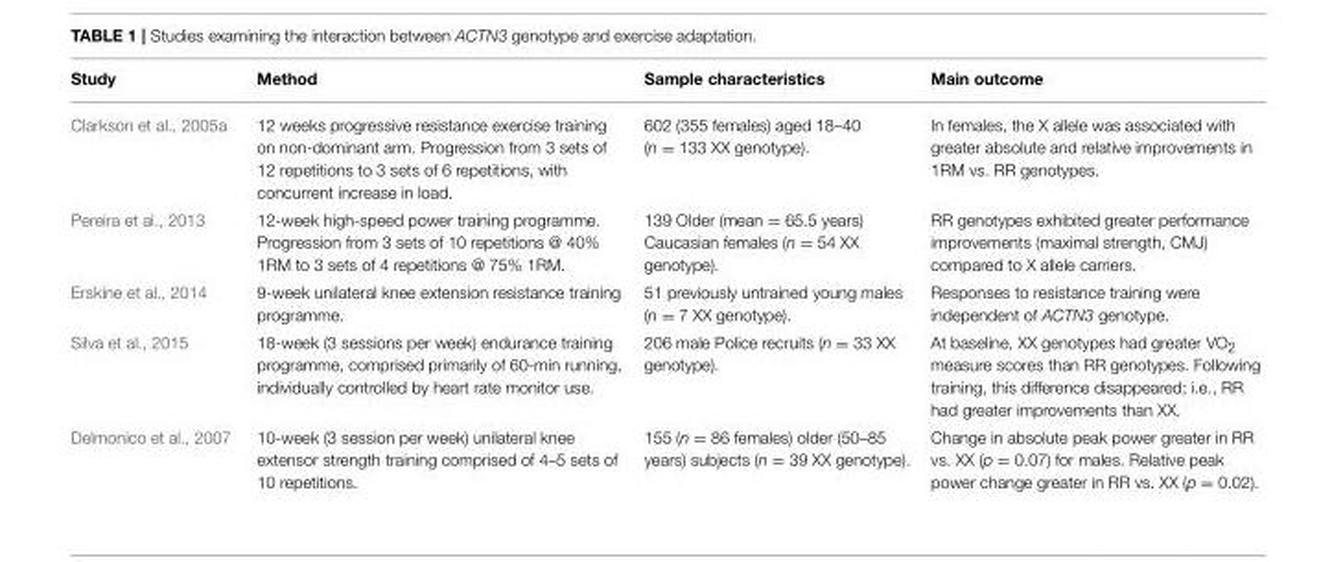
<table><thead><tr><td>Study</td><td>Method</td><td>Sample characteristics</td><td>Main outcome</td></tr></thead><tbody><tr><td>Clarkson et al., 2005a</td><td>12 weeks progressive resistance exercise training on non-dominant arm. Progression from 3 sets of 12 repetitions to 3 sets of 6 repetitions, with concurrent increase in load.</td><td>602 (355 females) aged 18–40 (n = 133 XX genotype).</td><td>In females, the X allele was associated with greater absolute and relative improvements in 1RM vs. RR genotypes.</td></tr><tr><td>Pereira et al., 2013</td><td>12-week high-speed power training programme. Progression from 3 sets of 10 repetitions @ 40% 1RM to 3 sets of 4 repetitions @ 75% 1RM.</td><td>139 Older (mean = 65.5 years) Caucasian females (n = 54 XX genotype).</td><td>RR genotypes exhibited greater performance improvements (maximal strength, CMJ) compared to X allele carriers.</td></tr><tr><td>Erskine et al., 2014</td><td>9-week unilateral knee extension resistance training programme.</td><td>51 previously untrained young males (n = 7 XX genotype).</td><td>Responses to resistance training were independent of ACTN3 genotype.</td></tr><tr><td>Silva et al., 2015</td><td>18-week (3 sessions per week) endurance training programme, comprised primarily of 60-min running, individually controlled by heart rate monitor use.</td><td>206 male Police recruits (n = 33 XX genotype).</td><td>At baseline, XX genotypes had greater VO<sub>2</sub> measure scores than RR genotypes. Following training, this difference disappeared; i.e., RR had greater improvements than XX.</td></tr><tr><td>Delmonico et al., 2007</td><td>10-week (3 session per week) unilateral knee extensor strength training comprised of 4–5 sets of 10 repetitions.</td><td>155 (n = 86 females) older (50–85 years) subjects (n = 39 XX genotype).</td><td>Change in absolute peak power greater in RR vs. XX (p = 0.07) for males. Relative peak power change greater in RR vs. XX (p = 0.02).</td></tr></tbody></table>